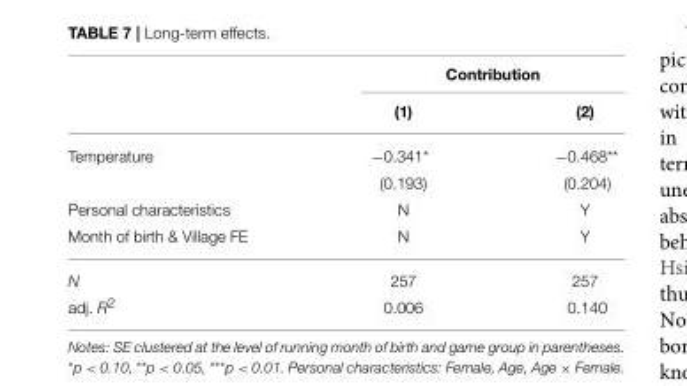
<table><thead><tr><td rowspan="2"></td><td colspan="2">Contribution</td></tr><tr><td>(1)</td><td>(2)</td></tr></thead><tbody><tr><td rowspan="2">Temperature</td><td>−0.341*</td><td>−0.468**</td></tr><tr><td>(0.193)</td><td>(0.204)</td></tr><tr><td>Personal characteristics</td><td>N</td><td>Y</td></tr><tr><td>Month of birth &amp; Village FE</td><td>N</td><td>Y</td></tr><tr><td>N</td><td>257</td><td>257</td></tr><tr><td>adj. R<sup>2</sup></td><td>0.006</td><td>0.140</td></tr></tbody></table>